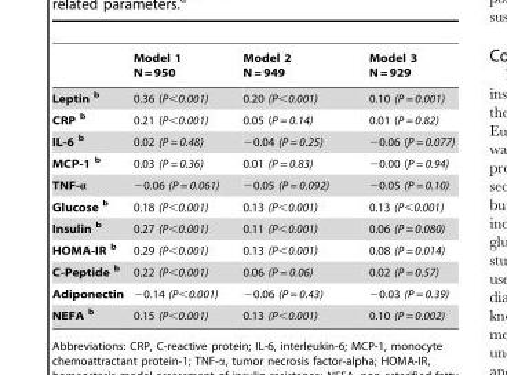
<table><thead><tr><td></td><td>Model 1 N = 950</td><td>Model 2 N = 949</td><td>Model 3 N = 929</td></tr></thead><tbody><tr><td>Leptin b</td><td>0.36 (P&lt;0.001)</td><td>0.20 (P&lt;0.001)</td><td>0.10 (P = 0.001)</td></tr><tr><td>CRP b</td><td>0.21 (P&lt;0.001)</td><td>0.05 (P = 0.14)</td><td>0.01 (P = 0.82)</td></tr><tr><td>IL-6 b</td><td>0.02 (P = 0.48)</td><td>−0.04 (P = 0.25)</td><td>−0.06 (P = 0.077)</td></tr><tr><td>MCP-1 b</td><td>0.03 (P = 0.36)</td><td>0.01 (P = 0.83)</td><td>−0.00 (P = 0.94)</td></tr><tr><td>TNF-α</td><td>−0.06 (P = 0.061)</td><td>−0.05 (P = 0.092)</td><td>−0.05 (P = 0.10)</td></tr><tr><td>Glucose b</td><td>0.18 (P&lt;0.001)</td><td>0.13 (P&lt;0.001)</td><td>0.13 (P&lt;0.001)</td></tr><tr><td>Insulin b</td><td>0.27 (P&lt;0.001)</td><td>0.11 (P&lt;0.001)</td><td>0.06 (P = 0.080)</td></tr><tr><td>HOMA-IR b</td><td>0.29 (P&lt;0.001)</td><td>0.13 (P&lt;0.001)</td><td>0.08 (P = 0.014)</td></tr><tr><td>C-Peptide b</td><td>0.22 (P&lt;0.001)</td><td>0.06 (P = 0.06)</td><td>0.02 (P = 0.57)</td></tr><tr><td>Adiponectin</td><td>−0.14 (P&lt;0.001)</td><td>−0.06 (P = 0.43)</td><td>−0.03 (P = 0.39)</td></tr><tr><td>NEFA b</td><td>0.15 (P&lt;0.001)</td><td>0.13 (P&lt;0.001)</td><td>0.10 (P = 0.002)</td></tr></tbody></table>